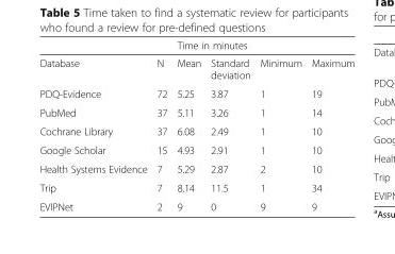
<table><thead><tr><td rowspan="2">Database</td><td rowspan="2">N</td><td colspan="4">Time in minutes</td></tr><tr><td>Mean</td><td>Standard deviation</td><td>Minimum</td><td>Maximum</td></tr></thead><tbody><tr><td>PDQ-Evidence</td><td>72</td><td>5.25</td><td>3.87</td><td>1</td><td>19</td></tr><tr><td>PubMed</td><td>37</td><td>5.11</td><td>3.26</td><td>1</td><td>14</td></tr><tr><td>Cochrane Library</td><td>37</td><td>6.08</td><td>2.49</td><td>1</td><td>10</td></tr><tr><td>Google Scholar</td><td>15</td><td>4.93</td><td>2.91</td><td>1</td><td>10</td></tr><tr><td>Health Systems Evidence</td><td>7</td><td>5.29</td><td>2.87</td><td>2</td><td>10</td></tr><tr><td>Trip</td><td>7</td><td>8.14</td><td>11.5</td><td>1</td><td>34</td></tr><tr><td>EVIPNet</td><td>2</td><td>9</td><td>0</td><td>9</td><td>9</td></tr></tbody></table>